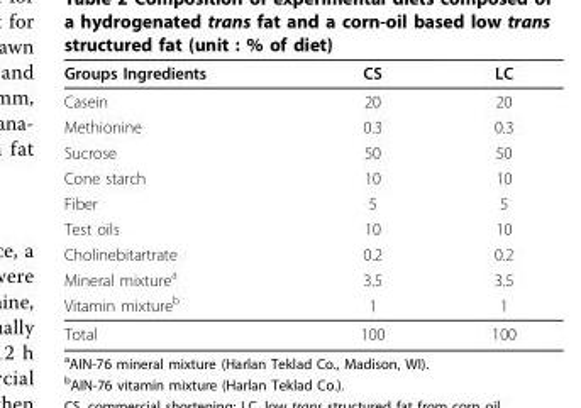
<table><thead><tr><td>Groups Ingredients</td><td>CS</td><td>LC</td></tr></thead><tbody><tr><td>Casein</td><td>20</td><td>20</td></tr><tr><td>Methionine</td><td>0.3</td><td>0.3</td></tr><tr><td>Sucrose</td><td>50</td><td>50</td></tr><tr><td>Cone starch</td><td>10</td><td>10</td></tr><tr><td>Fiber</td><td>5</td><td>5</td></tr><tr><td>Test oils</td><td>10</td><td>10</td></tr><tr><td>Cholinebitartrate</td><td>0.2</td><td>0.2</td></tr><tr><td>Mineral mixture<sup>a</sup></td><td>3.5</td><td>3.5</td></tr><tr><td>Vitamin mixture<sup>b</sup></td><td>1</td><td>1</td></tr><tr><td>Total</td><td>100</td><td>100</td></tr></tbody></table>